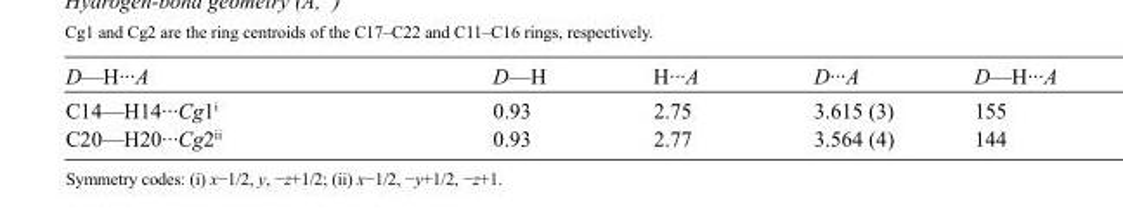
<table><tbody><tr><td>D—H···A</td><td>D—H</td><td>H···A</td><td>D···A</td><td>D—H···A</td></tr><tr><td>C14—H14···Cg1<sup>i</sup></td><td>0.93</td><td>2.75</td><td>3.615 (3)</td><td>155</td></tr><tr><td>C20—H20···Cg2<sup>ii</sup></td><td>0.93</td><td>2.77</td><td>3.564 (4)</td><td>144</td></tr></tbody></table>